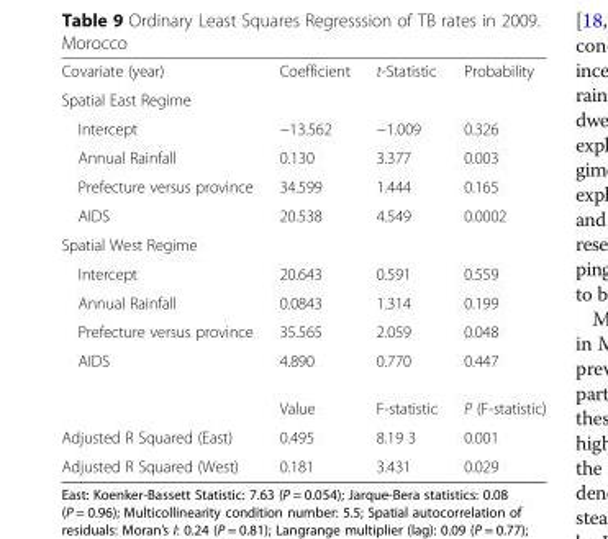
<table><tbody><tr><td>Covariate (year)</td><td>Coefficient</td><td>t-Statistic</td><td>Probability</td></tr><tr><td colspan="4">Spatial East Regime</td></tr><tr><td>Intercept</td><td>−13.562</td><td>−1.009</td><td>0.326</td></tr><tr><td>Annual Rainfall</td><td>0.130</td><td>3.377</td><td>0.003</td></tr><tr><td>Prefecture versus province</td><td>34.599</td><td>1.444</td><td>0.165</td></tr><tr><td>AIDS</td><td>20.538</td><td>4.549</td><td>0.0002</td></tr><tr><td colspan="4">Spatial West Regime</td></tr><tr><td>Intercept</td><td>20.643</td><td>0.591</td><td>0.559</td></tr><tr><td>Annual Rainfall</td><td>0.0843</td><td>1.314</td><td>0.199</td></tr><tr><td>Prefecture versus province</td><td>35.565</td><td>2.059</td><td>0.048</td></tr><tr><td rowspan="2">AIDS</td><td>4.890</td><td>0.770</td><td>0.447</td></tr><tr><td>Value</td><td>F-statistic</td><td>P (F-statistic)</td></tr><tr><td>Adjusted R Squared (East)</td><td>0.495</td><td>8.19 3</td><td>0.001</td></tr><tr><td>Adjusted R Squared (West)</td><td>0.181</td><td>3.431</td><td>0.029</td></tr></tbody></table>